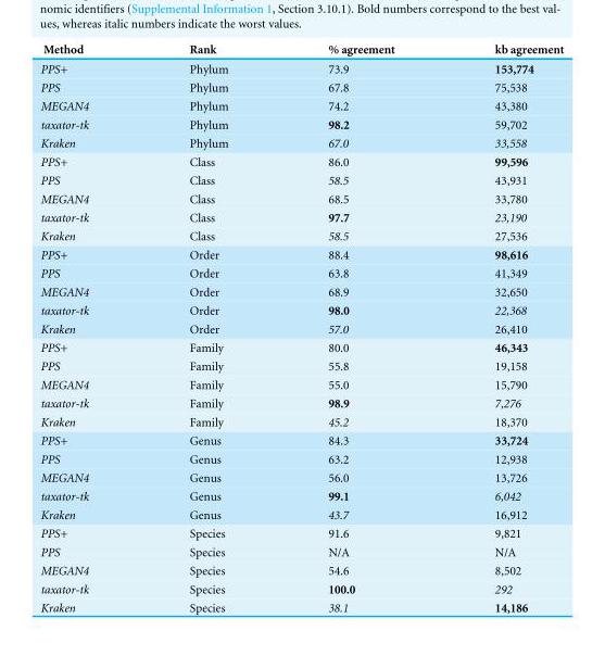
<table><thead><tr><td>Method</td><td>Rank</td><td>% agreement</td><td>kb agreement</td></tr></thead><tbody><tr><td>PPS+</td><td>Phylum</td><td>73.9</td><td>153,774</td></tr><tr><td>PPS</td><td>Phylum</td><td>67.8</td><td>75,538</td></tr><tr><td>MEGAN4</td><td>Phylum</td><td>74.2</td><td>43,380</td></tr><tr><td>taxator-tk</td><td>Phylum</td><td>98.2</td><td>59,702</td></tr><tr><td>Kraken</td><td>Phylum</td><td>67.0</td><td>33,558</td></tr><tr><td>PPS+</td><td>Class</td><td>86.0</td><td>99,596</td></tr><tr><td>PPS</td><td>Class</td><td>58.5</td><td>43,931</td></tr><tr><td>MEGAN4</td><td>Class</td><td>68.5</td><td>33,780</td></tr><tr><td>taxator-tk</td><td>Class</td><td>97.7</td><td>23,190</td></tr><tr><td>Kraken</td><td>Class</td><td>58.5</td><td>27,536</td></tr><tr><td>PPS+</td><td>Order</td><td>88.4</td><td>98,616</td></tr><tr><td>PPS</td><td>Order</td><td>63.8</td><td>41,349</td></tr><tr><td>MEGAN4</td><td>Order</td><td>68.9</td><td>32,650</td></tr><tr><td>taxator-tk</td><td>Order</td><td>98.0</td><td>22,368</td></tr><tr><td>Kraken</td><td>Order</td><td>57.0</td><td>26,410</td></tr><tr><td>PPS+</td><td>Family</td><td>80.0</td><td>46,343</td></tr><tr><td>PPS</td><td>Family</td><td>55.8</td><td>19,158</td></tr><tr><td>MEGAN4</td><td>Family</td><td>55.0</td><td>15,790</td></tr><tr><td>taxator-tk</td><td>Family</td><td>98.9</td><td>7,276</td></tr><tr><td>Kraken</td><td>Family</td><td>45.2</td><td>18,370</td></tr><tr><td>PPS+</td><td>Genus</td><td>84.3</td><td>33,724</td></tr><tr><td>PPS</td><td>Genus</td><td>63.2</td><td>12,938</td></tr><tr><td>MEGAN4</td><td>Genus</td><td>56.0</td><td>13,726</td></tr><tr><td>taxator-tk</td><td>Genus</td><td>99.1</td><td>6,042</td></tr><tr><td>Kraken</td><td>Genus</td><td>43.7</td><td>16,912</td></tr><tr><td>PPS+</td><td>Species</td><td>91.6</td><td>9,821</td></tr><tr><td>PPS</td><td>Species</td><td>N/A</td><td>N/A</td></tr><tr><td>MEGAN4</td><td>Species</td><td>54.6</td><td>8,502</td></tr><tr><td>taxator-tk</td><td>Species</td><td>100.0</td><td>292</td></tr><tr><td>Kraken</td><td>Species</td><td>38.1</td><td>14,186</td></tr></tbody></table>